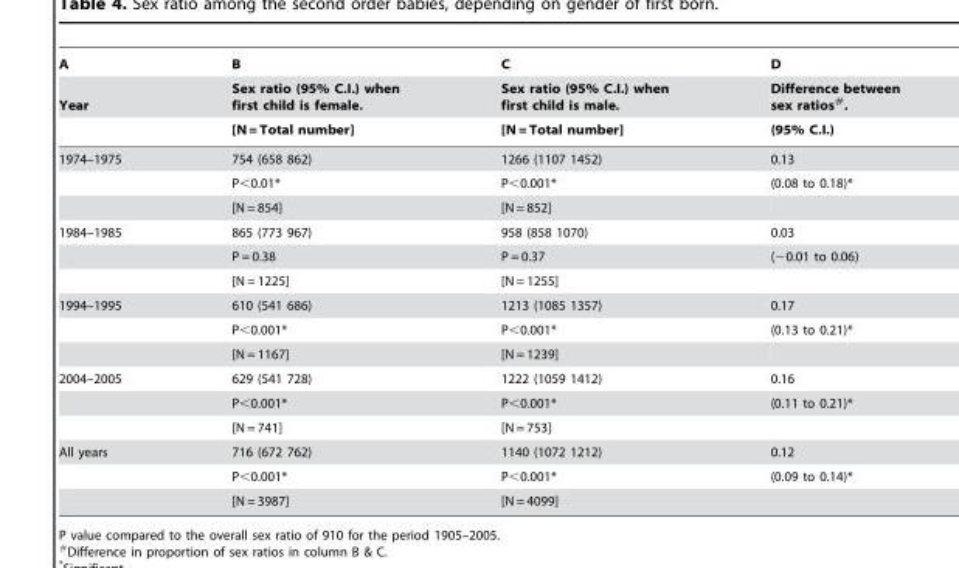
<table><thead><tr><td rowspan="3">A Year</td><td rowspan="3">B Sex ratio (95% C.I.) when first child is female. [N = Total number]</td><td rowspan="3">C Sex ratio (95% C.I.) when first child is male. [N = Total number]</td><td rowspan="3">D Difference between sex ratios#. (95% C.I.)</td></tr><tr></tr><tr></tr></thead><tbody><tr><td rowspan="3">1974–1975</td><td>754 (658 862)</td><td>1266 (1107 1452)</td><td>0.13</td></tr><tr><td>P&lt;0.01*</td><td>P&lt;0.001*</td><td>(0.08 to 0.18)*</td></tr><tr><td>[N = 854]</td><td>[N = 852]</td><td></td></tr><tr><td rowspan="3">1984–1985</td><td>865 (773 967)</td><td>958 (858 1070)</td><td>0.03</td></tr><tr><td>P = 0.38</td><td>P = 0.37</td><td>(−0.01 to 0.06)</td></tr><tr><td>[N = 1225]</td><td>[N = 1255]</td><td></td></tr><tr><td rowspan="3">1994–1995</td><td>610 (541 686)</td><td>1213 (1085 1357)</td><td>0.17</td></tr><tr><td>P&lt;0.001*</td><td>P&lt;0.001*</td><td>(0.13 to 0.21)*</td></tr><tr><td>[N = 1167]</td><td>[N = 1239]</td><td></td></tr><tr><td rowspan="3">2004–2005</td><td>629 (541 728)</td><td>1222 (1059 1412)</td><td>0.16</td></tr><tr><td>P&lt;0.001*</td><td>P&lt;0.001*</td><td>(0.11 to 0.21)*</td></tr><tr><td>[N = 741]</td><td>[N = 753]</td><td></td></tr><tr><td rowspan="3">All years</td><td>716 (672 762)</td><td>1140 (1072 1212)</td><td>0.12</td></tr><tr><td>P&lt;0.001*</td><td>P&lt;0.001*</td><td>(0.09 to 0.14)*</td></tr><tr><td>[N = 3987]</td><td>[N = 4099]</td><td></td></tr></tbody></table>